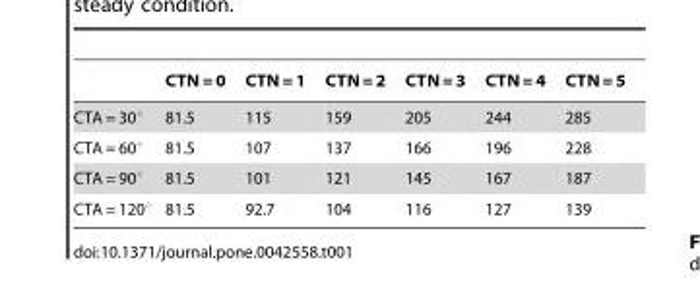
<table><thead><tr><td></td><td>CTN = 0</td><td>CTN = 1</td><td>CTN = 2</td><td>CTN = 3</td><td>CTN = 4</td><td>CTN = 5</td></tr></thead><tbody><tr><td>CTA = 30°</td><td>81.5</td><td>115</td><td>159</td><td>205</td><td>244</td><td>285</td></tr><tr><td>CTA = 60°</td><td>81.5</td><td>107</td><td>137</td><td>166</td><td>196</td><td>228</td></tr><tr><td>CTA = 90°</td><td>81.5</td><td>101</td><td>121</td><td>145</td><td>167</td><td>187</td></tr><tr><td>CTA = 120°</td><td>81.5</td><td>92.7</td><td>104</td><td>116</td><td>127</td><td>139</td></tr></tbody></table>